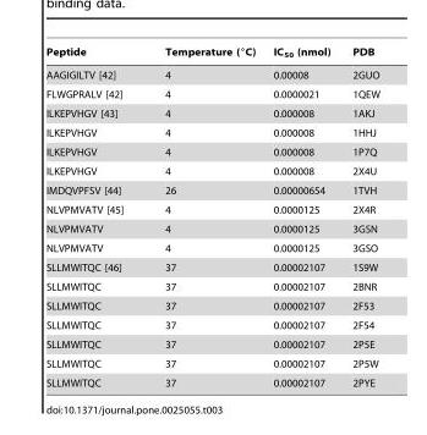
<table><thead><tr><td>Peptide</td><td>Temperature (°C)</td><td>IC<sub>50</sub> (nmol)</td><td>PDB</td></tr></thead><tbody><tr><td>AAGIGILTV [42]</td><td>4</td><td>0.00008</td><td>2GUO</td></tr><tr><td>FLWGPRALV [42]</td><td>4</td><td>0.0000021</td><td>1QEW</td></tr><tr><td>ILKEPVHGV [43]</td><td>4</td><td>0.000008</td><td>1AKJ</td></tr><tr><td>ILKEPVHGV</td><td>4</td><td>0.000008</td><td>1HHJ</td></tr><tr><td>ILKEPVHGV</td><td>4</td><td>0.000008</td><td>1P7Q</td></tr><tr><td>ILKEPVHGV</td><td>4</td><td>0.000008</td><td>2X4U</td></tr><tr><td>IMDQVPFSV [44]</td><td>26</td><td>0.00000654</td><td>1TVH</td></tr><tr><td>NLVPMVATV [45]</td><td>4</td><td>0.0000125</td><td>2X4R</td></tr><tr><td>NLVPMVATV</td><td>4</td><td>0.0000125</td><td>3GSN</td></tr><tr><td>NLVPMVATV</td><td>4</td><td>0.0000125</td><td>3GSO</td></tr><tr><td>SLLMWITQC [46]</td><td>37</td><td>0.00002107</td><td>1S9W</td></tr><tr><td>SLLMWITQC</td><td>37</td><td>0.00002107</td><td>2BNR</td></tr><tr><td>SLLMWITQC</td><td>37</td><td>0.00002107</td><td>2F53</td></tr><tr><td>SLLMWITQC</td><td>37</td><td>0.00002107</td><td>2F54</td></tr><tr><td>SLLMWITQC</td><td>37</td><td>0.00002107</td><td>2P5E</td></tr><tr><td>SLLMWITQC</td><td>37</td><td>0.00002107</td><td>2P5W</td></tr><tr><td>SLLMWITQC</td><td>37</td><td>0.00002107</td><td>2PYE</td></tr></tbody></table>